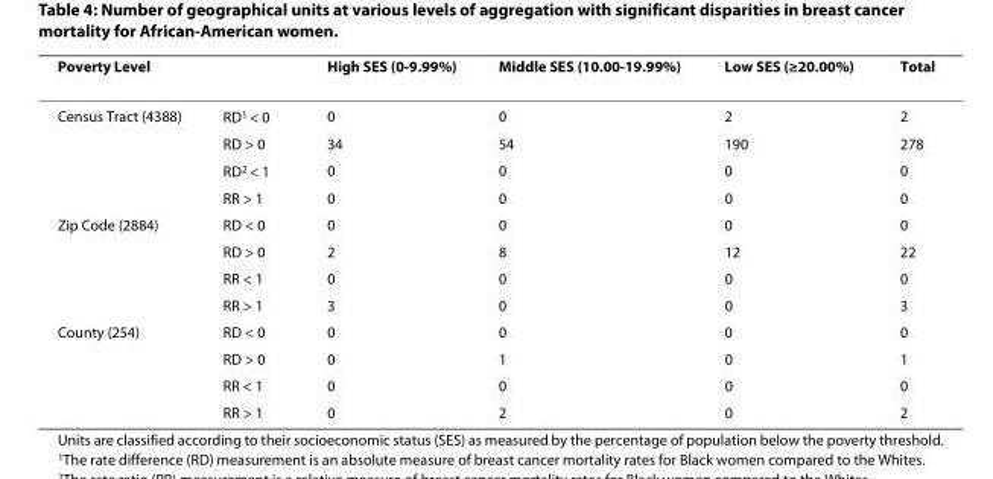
<table><thead><tr><td>Poverty Level</td><td></td><td>High SES (0-9.99%)</td><td>Middle SES (10.00-19.99%)</td><td>Low SES (≥20.00%)</td><td>Total</td></tr></thead><tbody><tr><td rowspan="4">Census Tract (4388)</td><td>RD<sup>1</sup> &lt; 0</td><td>0</td><td>0</td><td>2</td><td>2</td></tr><tr><td>RD &gt; 0</td><td>34</td><td>54</td><td>190</td><td>278</td></tr><tr><td>RD<sup>2</sup> &lt; 1</td><td>0</td><td>0</td><td>0</td><td>0</td></tr><tr><td>RR &gt; 1</td><td>0</td><td>0</td><td>0</td><td>0</td></tr><tr><td rowspan="4">Zip Code (2884)</td><td>RD &lt; 0</td><td>0</td><td>0</td><td>0</td><td>0</td></tr><tr><td>RD &gt; 0</td><td>2</td><td>8</td><td>12</td><td>22</td></tr><tr><td>RR &lt; 1</td><td>0</td><td>0</td><td>0</td><td>0</td></tr><tr><td>RR &gt; 1</td><td>3</td><td>0</td><td>0</td><td>3</td></tr><tr><td rowspan="4">County (254)</td><td>RD &lt; 0</td><td>0</td><td>0</td><td>0</td><td>0</td></tr><tr><td>RD &gt; 0</td><td>0</td><td>1</td><td>0</td><td>1</td></tr><tr><td>RR &lt; 1</td><td>0</td><td>0</td><td>0</td><td>0</td></tr><tr><td>RR &gt; 1</td><td>0</td><td>2</td><td>0</td><td>2</td></tr></tbody></table>